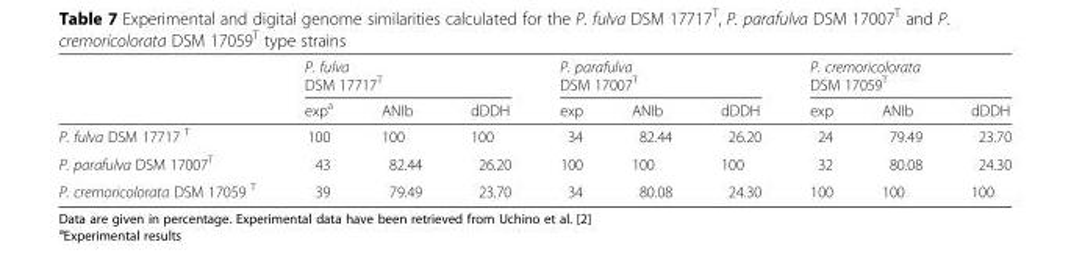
<table><thead><tr><td rowspan="2"></td><td colspan="3">P. fulva DSM 17717<sup>T</sup></td><td colspan="3">P. parafulva DSM 17007<sup>T</sup></td><td colspan="3">P. cremoricolorata DSM 17059<sup>T</sup></td></tr><tr><td>exp<sup>a</sup></td><td>ANIb</td><td>dDDH</td><td>exp</td><td>ANIb</td><td>dDDH</td><td>exp</td><td>ANIb</td><td>dDDH</td></tr></thead><tbody><tr><td>P. fulva DSM 17717 <sup>T</sup></td><td>100</td><td>100</td><td>100</td><td>34</td><td>82.44</td><td>26.20</td><td>24</td><td>79.49</td><td>23.70</td></tr><tr><td>P. parafulva DSM 17007<sup>T</sup></td><td>43</td><td>82.44</td><td>26.20</td><td>100</td><td>100</td><td>100</td><td>32</td><td>80.08</td><td>24.30</td></tr><tr><td>P. cremoricolorata DSM 17059 <sup>T</sup></td><td>39</td><td>79.49</td><td>23.70</td><td>34</td><td>80.08</td><td>24.30</td><td>100</td><td>100</td><td>100</td></tr></tbody></table>